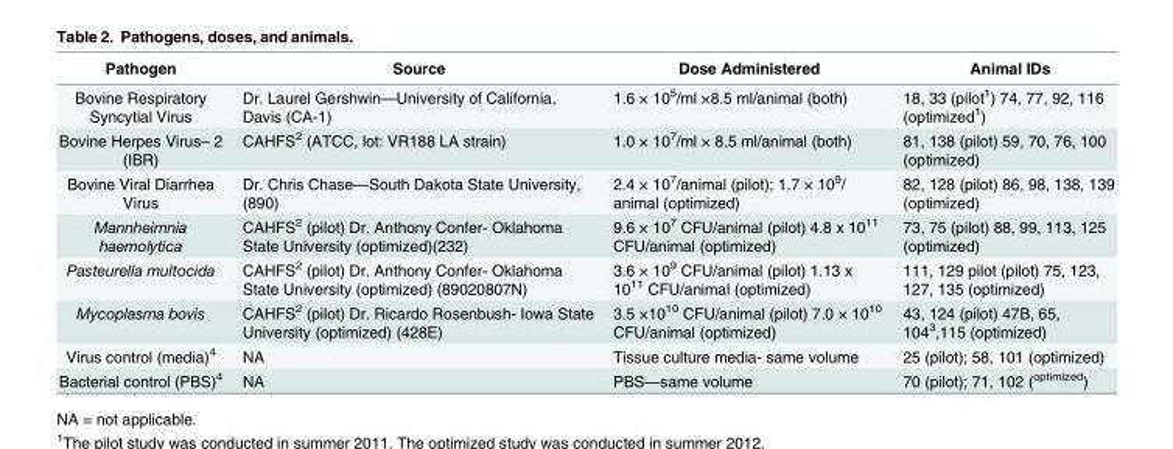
<table><thead><tr><td>Pathogen</td><td>Source</td><td>Dose Administered</td><td>Animal IDs</td></tr></thead><tbody><tr><td>Bovine Respiratory Syncytial Virus</td><td>Dr. Laurel Gershwin—University of California, Davis (CA-1)</td><td>1.6 × 10<sup>5</sup>/ml ×8.5 ml/animal (both)</td><td>18, 33 (pilot<sup>1</sup>) 74, 77, 92, 116 (optimized<sup>1</sup>)</td></tr><tr><td>Bovine Herpes Virus– 2 (IBR)</td><td>CAHFS<sup>2</sup> (ATCC, lot: VR188 LA strain)</td><td>1.0 × 10<sup>7</sup>/ml × 8.5 ml/animal (both)</td><td>81, 138 (pilot) 59, 70, 76, 100 (optimized)</td></tr><tr><td>Bovine Viral Diarrhea Virus</td><td>Dr. Chris Chase—South Dakota State University, (890)</td><td>2.4 × 10<sup>7</sup>/animal (pilot); 1.7 × 10<sup>9</sup>/ animal (optimized)</td><td>82, 128 (pilot) 86, 98, 138, 139 (optimized)</td></tr><tr><td>Mannheimnia haemolytica</td><td>CAHFS<sup>2</sup> (pilot) Dr. Anthony Confer- Oklahoma State University (optimized)(232)</td><td>9.6 × 10<sup>7</sup> CFU/animal (pilot) 4.8 x 10<sup>11</sup> CFU/animal (optimized)</td><td>73, 75 (pilot) 88, 99, 113, 125 (optimized)</td></tr><tr><td>Pasteurella multocida</td><td>CAHFS<sup>2</sup> (pilot) Dr. Anthony Confer- Oklahoma State University (optimized) (89020807N)</td><td>3.6 × 10<sup>9</sup> CFU/animal (pilot) 1.13 x 10<sup>11</sup> CFU/animal (optimized)</td><td>111, 129 pilot (pilot) 75, 123, 127, 135 (optimized)</td></tr><tr><td>Mycoplasma bovis</td><td>CAHFS<sup>2</sup> (pilot) Dr. Ricardo Rosenbush- Iowa State University (optimized) (428E)</td><td>3.5 ×10<sup>10</sup> CFU/animal (pilot) 7.0 × 10<sup>10</sup> CFU/animal (optimized)</td><td>43, 124 (pilot) 47B, 65, 104<sup>3</sup>,115 (optimized)</td></tr><tr><td>Virus control (media)<sup>4</sup></td><td>NA</td><td>Tissue culture media- same volume</td><td>25 (pilot); 58, 101 (optimized)</td></tr><tr><td>Bacterial control (PBS)<sup>4</sup></td><td>NA</td><td>PBS—same volume</td><td>70 (pilot); 71, 102 (<sup>optimized</sup>)</td></tr></tbody></table>